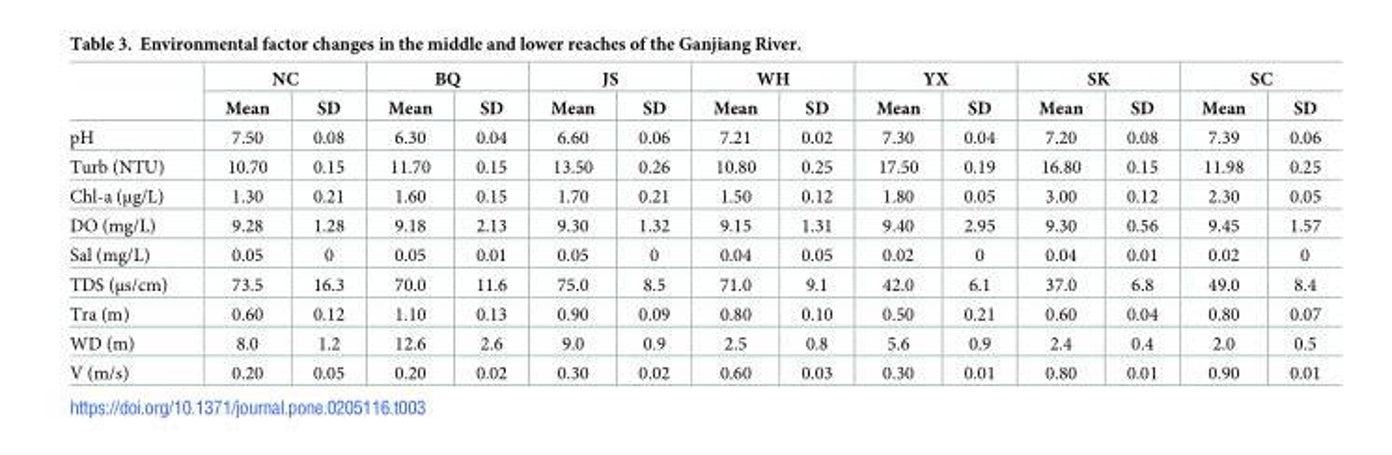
<table><thead><tr><td rowspan="2"></td><td colspan="2">NC</td><td colspan="2">BQ</td><td colspan="2">JS</td><td colspan="2">WH</td><td colspan="2">YX</td><td colspan="2">SK</td><td colspan="2">SC</td></tr><tr><td>Mean</td><td>SD</td><td>Mean</td><td>SD</td><td>Mean</td><td>SD</td><td>Mean</td><td>SD</td><td>Mean</td><td>SD</td><td>Mean</td><td>SD</td><td>Mean</td><td>SD</td></tr></thead><tbody><tr><td>pH</td><td>7.50</td><td>0.08</td><td>6.30</td><td>0.04</td><td>6.60</td><td>0.06</td><td>7.21</td><td>0.02</td><td>7.30</td><td>0.04</td><td>7.20</td><td>0.08</td><td>7.39</td><td>0.06</td></tr><tr><td>Turb (NTU)</td><td>10.70</td><td>0.15</td><td>11.70</td><td>0.15</td><td>13.50</td><td>0.26</td><td>10.80</td><td>0.25</td><td>17.50</td><td>0.19</td><td>16.80</td><td>0.15</td><td>11.98</td><td>0.25</td></tr><tr><td>Chl-a (μg/L)</td><td>1.30</td><td>0.21</td><td>1.60</td><td>0.15</td><td>1.70</td><td>0.21</td><td>1.50</td><td>0.12</td><td>1.80</td><td>0.05</td><td>3.00</td><td>0.12</td><td>2.30</td><td>0.05</td></tr><tr><td>DO (mg/L)</td><td>9.28</td><td>1.28</td><td>9.18</td><td>2.13</td><td>9.30</td><td>1.32</td><td>9.15</td><td>1.31</td><td>9.40</td><td>2.95</td><td>9.30</td><td>0.56</td><td>9.45</td><td>1.57</td></tr><tr><td>Sal (mg/L)</td><td>0.05</td><td>0</td><td>0.05</td><td>0.01</td><td>0.05</td><td>0</td><td>0.04</td><td>0.05</td><td>0.02</td><td>0</td><td>0.04</td><td>0.01</td><td>0.02</td><td>0</td></tr><tr><td>TDS (μs/cm)</td><td>73.5</td><td>16.3</td><td>70.0</td><td>11.6</td><td>75.0</td><td>8.5</td><td>71.0</td><td>9.1</td><td>42.0</td><td>6.1</td><td>37.0</td><td>6.8</td><td>49.0</td><td>8.4</td></tr><tr><td>Tra (m)</td><td>0.60</td><td>0.12</td><td>1.10</td><td>0.13</td><td>0.90</td><td>0.09</td><td>0.80</td><td>0.10</td><td>0.50</td><td>0.21</td><td>0.60</td><td>0.04</td><td>0.80</td><td>0.07</td></tr><tr><td>WD (m)</td><td>8.0</td><td>1.2</td><td>12.6</td><td>2.6</td><td>9.0</td><td>0.9</td><td>2.5</td><td>0.8</td><td>5.6</td><td>0.9</td><td>2.4</td><td>0.4</td><td>2.0</td><td>0.5</td></tr><tr><td>V (m/s)</td><td>0.20</td><td>0.05</td><td>0.20</td><td>0.02</td><td>0.30</td><td>0.02</td><td>0.60</td><td>0.03</td><td>0.30</td><td>0.01</td><td>0.80</td><td>0.01</td><td>0.90</td><td>0.01</td></tr></tbody></table>